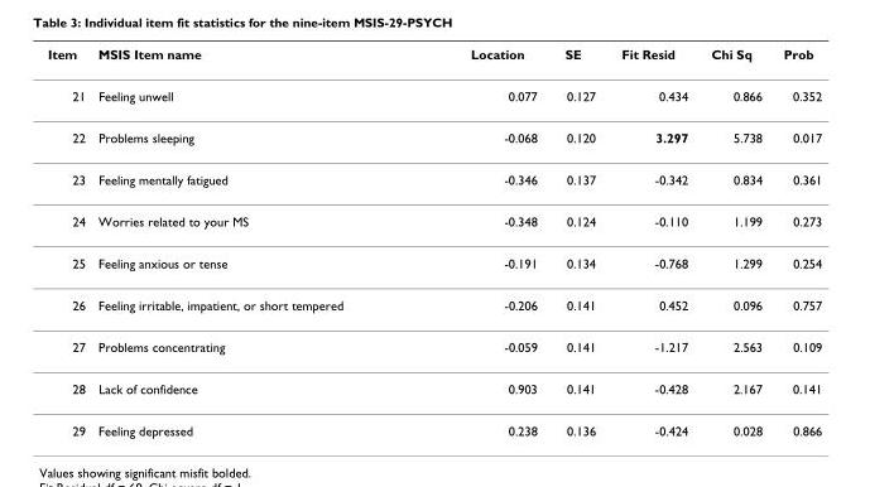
<table><thead><tr><td>Item</td><td>MSIS Item name</td><td>Location</td><td>SE</td><td>Fit Resid</td><td>Chi Sq</td><td>Prob</td></tr></thead><tbody><tr><td>21</td><td>Feeling unwell</td><td>0.077</td><td>0.127</td><td>0.434</td><td>0.866</td><td>0.352</td></tr><tr><td>22</td><td>Problems sleeping</td><td>-0.068</td><td>0.120</td><td>3.297</td><td>5.738</td><td>0.017</td></tr><tr><td>23</td><td>Feeling mentally fatigued</td><td>-0.346</td><td>0.137</td><td>-0.342</td><td>0.834</td><td>0.361</td></tr><tr><td>24</td><td>Worries related to your MS</td><td>-0.348</td><td>0.124</td><td>-0.110</td><td>1.199</td><td>0.273</td></tr><tr><td>25</td><td>Feeling anxious or tense</td><td>-0.191</td><td>0.134</td><td>-0.768</td><td>1.299</td><td>0.254</td></tr><tr><td>26</td><td>Feeling irritable, impatient, or short tempered</td><td>-0.206</td><td>0.141</td><td>0.452</td><td>0.096</td><td>0.757</td></tr><tr><td>27</td><td>Problems concentrating</td><td>-0.059</td><td>0.141</td><td>-1.217</td><td>2.563</td><td>0.109</td></tr><tr><td>28</td><td>Lack of confidence</td><td>0.903</td><td>0.141</td><td>-0.428</td><td>2.167</td><td>0.141</td></tr><tr><td>29</td><td>Feeling depressed</td><td>0.238</td><td>0.136</td><td>-0.424</td><td>0.028</td><td>0.866</td></tr></tbody></table>